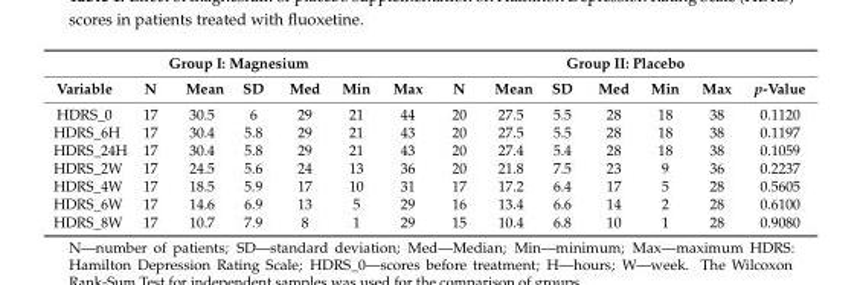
<table><thead><tr><td colspan="7">Group I: Magnesium</td><td colspan="7">Group II: Placebo</td></tr><tr><td>Variable</td><td>N</td><td>Mean</td><td>SD</td><td>Med</td><td>Min</td><td>Max</td><td>N</td><td>Mean</td><td>SD</td><td>Med</td><td>Min</td><td>Max</td><td>p-Value</td></tr></thead><tbody><tr><td>HDRS_0</td><td>17</td><td>30.5</td><td>6</td><td>29</td><td>21</td><td>44</td><td>20</td><td>27.5</td><td>5.5</td><td>28</td><td>18</td><td>38</td><td>0.1120</td></tr><tr><td>HDRS_6H</td><td>17</td><td>30.4</td><td>5.8</td><td>29</td><td>21</td><td>43</td><td>20</td><td>27.5</td><td>5.5</td><td>28</td><td>18</td><td>38</td><td>0.1197</td></tr><tr><td>HDRS_24H</td><td>17</td><td>30.4</td><td>5.8</td><td>29</td><td>21</td><td>43</td><td>20</td><td>27.4</td><td>5.4</td><td>28</td><td>18</td><td>38</td><td>0.1059</td></tr><tr><td>HDRS_2W</td><td>17</td><td>24.5</td><td>5.6</td><td>24</td><td>13</td><td>36</td><td>20</td><td>21.8</td><td>7.5</td><td>23</td><td>9</td><td>36</td><td>0.2237</td></tr><tr><td>HDRS_4W</td><td>17</td><td>18.5</td><td>5.9</td><td>17</td><td>10</td><td>31</td><td>17</td><td>17.2</td><td>6.4</td><td>17</td><td>5</td><td>28</td><td>0.5605</td></tr><tr><td>HDRS_6W</td><td>17</td><td>14.6</td><td>6.9</td><td>13</td><td>5</td><td>29</td><td>16</td><td>13.4</td><td>6.6</td><td>14</td><td>2</td><td>28</td><td>0.6100</td></tr><tr><td>HDRS_8W</td><td>17</td><td>10.7</td><td>7.9</td><td>8</td><td>1</td><td>29</td><td>15</td><td>10.4</td><td>6.8</td><td>10</td><td>1</td><td>28</td><td>0.9080</td></tr></tbody></table>